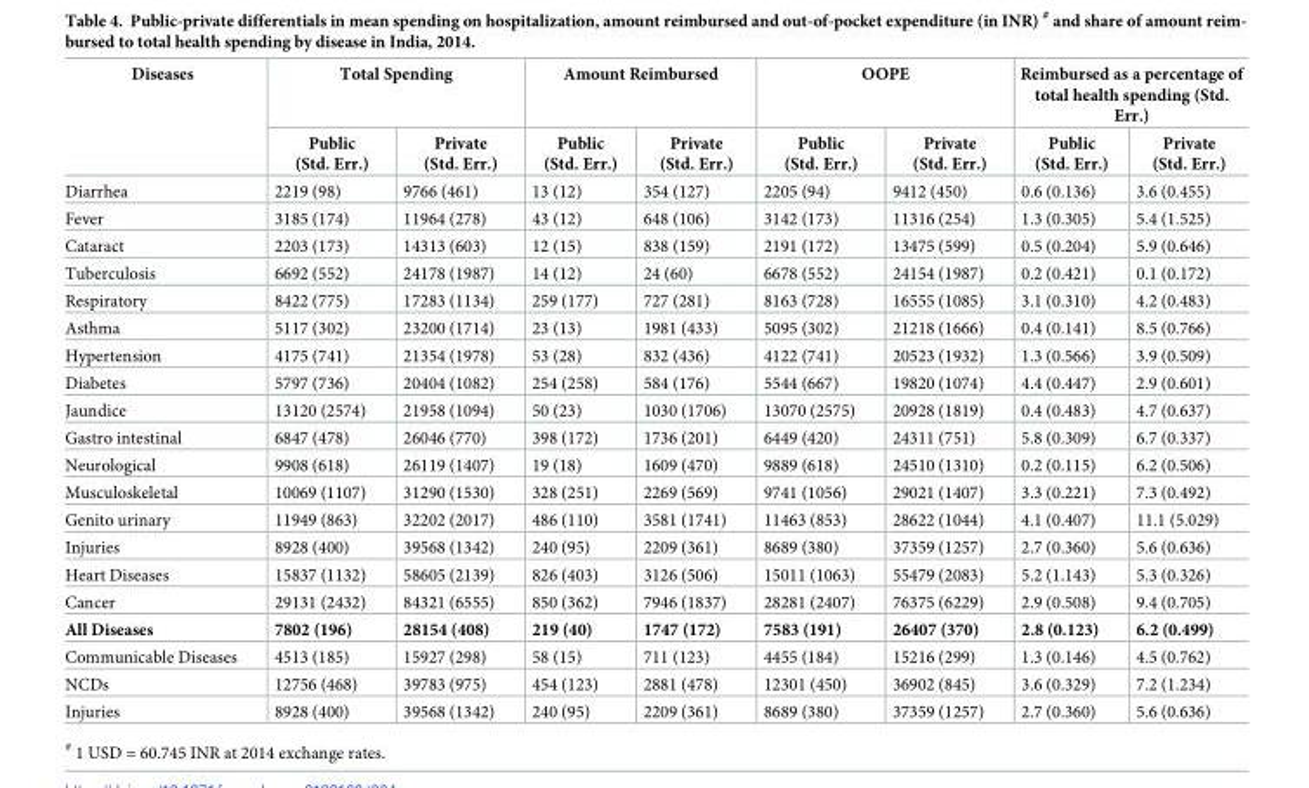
<table><thead><tr><td rowspan="2">Diseases</td><td colspan="2">Total Spending</td><td colspan="2">Amount Reimbursed</td><td colspan="2">OOPE</td><td colspan="2">Reimbursed as a percentage of total health spending (Std. Err.)</td></tr><tr><td>Public (Std. Err.)</td><td>Private (Std. Err.)</td><td>Public (Std. Err.)</td><td>Private (Std. Err.)</td><td>Public (Std. Err.)</td><td>Private (Std. Err.)</td><td>Public (Std. Err.)</td><td>Private (Std. Err.)</td></tr></thead><tbody><tr><td>Diarrhea</td><td>2219 (98)</td><td>9766 (461)</td><td>13 (12)</td><td>354 (127)</td><td>2205 (94)</td><td>9412 (450)</td><td>0.6 (0.136)</td><td>3.6 (0.455)</td></tr><tr><td>Fever</td><td>3185 (174)</td><td>11964 (278)</td><td>43 (12)</td><td>648 (106)</td><td>3142 (173)</td><td>11316 (254)</td><td>1.3 (0.305)</td><td>5.4 (1.525)</td></tr><tr><td>Cataract</td><td>2203 (173)</td><td>14313 (603)</td><td>12 (15)</td><td>838 (159)</td><td>2191 (172)</td><td>13475 (599)</td><td>0.5 (0.204)</td><td>5.9 (0.646)</td></tr><tr><td>Tuberculosis</td><td>6692 (552)</td><td>24178 (1987)</td><td>14 (12)</td><td>24 (60)</td><td>6678 (552)</td><td>24154 (1987)</td><td>0.2 (0.421)</td><td>0.1 (0.172)</td></tr><tr><td>Respiratory</td><td>8422 (775)</td><td>17283 (1134)</td><td>259 (177)</td><td>727 (281)</td><td>8163 (728)</td><td>16555 (1085)</td><td>3.1 (0.310)</td><td>4.2 (0.483)</td></tr><tr><td>Asthma</td><td>5117 (302)</td><td>23200 (1714)</td><td>23 (13)</td><td>1981 (433)</td><td>5095 (302)</td><td>21218 (1666)</td><td>0.4 (0.141)</td><td>8.5 (0.766)</td></tr><tr><td>Hypertension</td><td>4175 (741)</td><td>21354 (1978)</td><td>53 (28)</td><td>832 (436)</td><td>4122 (741)</td><td>20523 (1932)</td><td>1.3 (0.566)</td><td>3.9 (0.509)</td></tr><tr><td>Diabetes</td><td>5797 (736)</td><td>20404 (1082)</td><td>254 (258)</td><td>584 (176)</td><td>5544 (667)</td><td>19820 (1074)</td><td>4.4 (0.447)</td><td>2.9 (0.601)</td></tr><tr><td>Jaundice</td><td>13120 (2574)</td><td>21958 (1094)</td><td>50 (23)</td><td>1030 (1706)</td><td>13070 (2575)</td><td>20928 (1819)</td><td>0.4 (0.483)</td><td>4.7 (0.637)</td></tr><tr><td>Gastro intestinal</td><td>6847 (478)</td><td>26046 (770)</td><td>398 (172)</td><td>1736 (201)</td><td>6449 (420)</td><td>24311 (751)</td><td>5.8 (0.309)</td><td>6.7 (0.337)</td></tr><tr><td>Neurological</td><td>9908 (618)</td><td>26119 (1407)</td><td>19 (18)</td><td>1609 (470)</td><td>9889 (618)</td><td>24510 (1310)</td><td>0.2 (0.115)</td><td>6.2 (0.506)</td></tr><tr><td>Musculoskeletal</td><td>10069 (1107)</td><td>31290 (1530)</td><td>328 (251)</td><td>2269 (569)</td><td>9741 (1056)</td><td>29021 (1407)</td><td>3.3 (0.221)</td><td>7.3 (0.492)</td></tr><tr><td>Genito urinary</td><td>11949 (863)</td><td>32202 (2017)</td><td>486 (110)</td><td>3581 (1741)</td><td>11463 (853)</td><td>28622 (1044)</td><td>4.1 (0.407)</td><td>11.1 (5.029)</td></tr><tr><td>Injuries</td><td>8928 (400)</td><td>39568 (1342)</td><td>240 (95)</td><td>2209 (361)</td><td>8689 (380)</td><td>37359 (1257)</td><td>2.7 (0.360)</td><td>5.6 (0.636)</td></tr><tr><td>Heart Diseases</td><td>15837 (1132)</td><td>58605 (2139)</td><td>826 (403)</td><td>3126 (506)</td><td>15011 (1063)</td><td>55479 (2083)</td><td>5.2 (1.143)</td><td>5.3 (0.326)</td></tr><tr><td>Cancer</td><td>29131 (2432)</td><td>84321 (6555)</td><td>850 (362)</td><td>7946 (1837)</td><td>28281 (2407)</td><td>76375 (6229)</td><td>2.9 (0.508)</td><td>9.4 (0.705)</td></tr><tr><td>All Diseases</td><td>7802 (196)</td><td>28154 (408)</td><td>219 (40)</td><td>1747 (172)</td><td>7583 (191)</td><td>26407 (370)</td><td>2.8 (0.123)</td><td>6.2 (0.499)</td></tr><tr><td>Communicable Diseases</td><td>4513 (185)</td><td>15927 (298)</td><td>58 (15)</td><td>711 (123)</td><td>4455 (184)</td><td>15216 (299)</td><td>1.3 (0.146)</td><td>4.5 (0.762)</td></tr><tr><td>NCDs</td><td>12756 (468)</td><td>39783 (975)</td><td>454 (123)</td><td>2881 (478)</td><td>12301 (450)</td><td>36902 (845)</td><td>3.6 (0.329)</td><td>7.2 (1.234)</td></tr><tr><td>Injuries</td><td>8928 (400)</td><td>39568 (1342)</td><td>240 (95)</td><td>2209 (361)</td><td>8689 (380)</td><td>37359 (1257)</td><td>2.7 (0.360)</td><td>5.6 (0.636)</td></tr></tbody></table>